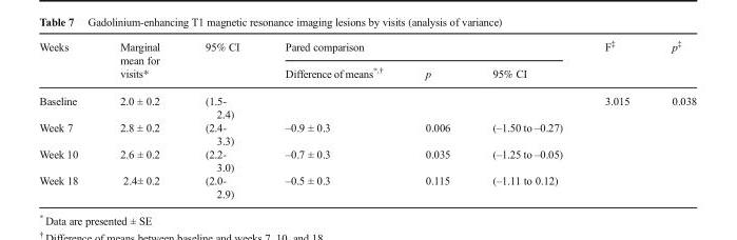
<table><thead><tr><td rowspan="2">Weeks</td><td rowspan="2">Marginal mean for visits*</td><td rowspan="2">95% CI</td><td colspan="3">Pared comparison</td><td rowspan="2">F<sup>‡</sup></td><td rowspan="2">p<sup>‡</sup></td></tr><tr><td>Difference of means<sup>*,†</sup></td><td>p</td><td>95% CI</td></tr></thead><tbody><tr><td>Baseline</td><td>2.0 ± 0.2</td><td>(1.5- 2.4)</td><td></td><td></td><td></td><td>3.015</td><td>0.038</td></tr><tr><td>Week 7</td><td>2.8 ± 0.2</td><td>(2.4- 3.3)</td><td>–0.9 ± 0.3</td><td>0.006</td><td>(–1.50 to –0.27)</td><td></td><td></td></tr><tr><td>Week 10</td><td>2.6 ± 0.2</td><td>(2.2- 3.0)</td><td>–0.7 ± 0.3</td><td>0.035</td><td>(–1.25 to –0.05)</td><td></td><td></td></tr><tr><td>Week 18</td><td>2.4± 0.2</td><td>(2.0- 2.9)</td><td>–0.5 ± 0.3</td><td>0.115</td><td>(–1.11 to 0.12)</td><td></td><td></td></tr></tbody></table>